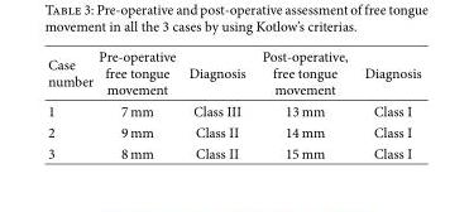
<table><thead><tr><td>Case number</td><td>Pre-operative free tongue movement</td><td>Diagnosis</td><td>Post-operative, free tongue movement</td><td>Diagnosis</td></tr></thead><tbody><tr><td>1</td><td>7 mm</td><td>Class III</td><td>13 mm</td><td>Class I</td></tr><tr><td>2</td><td>9 mm</td><td>Class II</td><td>14 mm</td><td>Class I</td></tr><tr><td>3</td><td>8 mm</td><td>Class II</td><td>15 mm</td><td>Class I</td></tr></tbody></table>